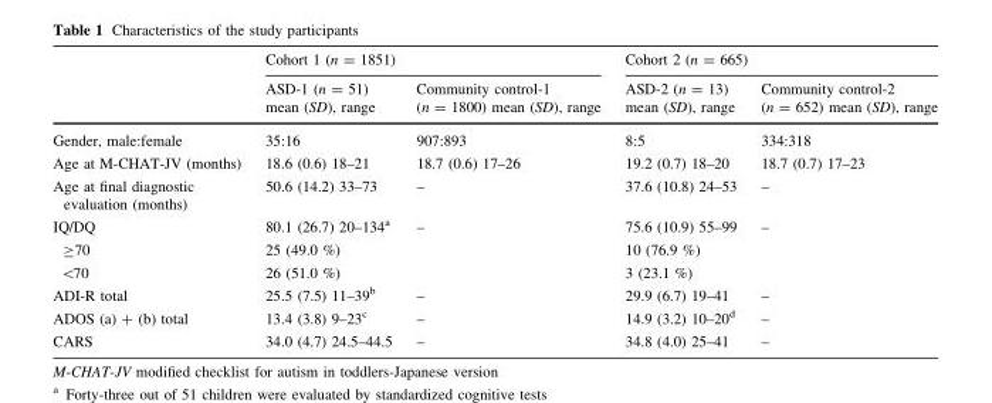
<table><thead><tr><td rowspan="2"></td><td colspan="2">Cohort 1 (n = 1851)</td><td colspan="2">Cohort 2 (n = 665)</td></tr><tr><td>ASD-1 (n = 51) mean (SD), range</td><td>Community control-1 (n = 1800) mean (SD), range</td><td>ASD-2 (n = 13) mean (SD), range</td><td>Community control-2 (n = 652) mean (SD), range</td></tr></thead><tbody><tr><td>Gender, male:female</td><td>35:16</td><td>907:893</td><td>8:5</td><td>334:318</td></tr><tr><td>Age at M-CHAT-JV (months)</td><td>18.6 (0.6) 18–21</td><td>18.7 (0.6) 17–26</td><td>19.2 (0.7) 18–20</td><td>18.7 (0.7) 17–23</td></tr><tr><td>Age at final diagnostic evaluation (months)</td><td>50.6 (14.2) 33–73</td><td>–</td><td>37.6 (10.8) 24–53</td><td>–</td></tr><tr><td>IQ/DQ</td><td>80.1 (26.7) 20–134<sup>a</sup></td><td>–</td><td>75.6 (10.9) 55–99</td><td>–</td></tr><tr><td>≥70</td><td>25 (49.0 %)</td><td></td><td>10 (76.9 %)</td><td></td></tr><tr><td>&lt;70</td><td>26 (51.0 %)</td><td></td><td>3 (23.1 %)</td><td></td></tr><tr><td>ADI-R total</td><td>25.5 (7.5) 11–39<sup>b</sup></td><td>–</td><td>29.9 (6.7) 19–41</td><td>–</td></tr><tr><td>ADOS (a) + (b) total</td><td>13.4 (3.8) 9–23<sup>c</sup></td><td>–</td><td>14.9 (3.2) 10–20<sup>d</sup></td><td>–</td></tr><tr><td>CARS</td><td>34.0 (4.7) 24.5–44.5</td><td>–</td><td>34.8 (4.0) 25–41</td><td>–</td></tr></tbody></table>